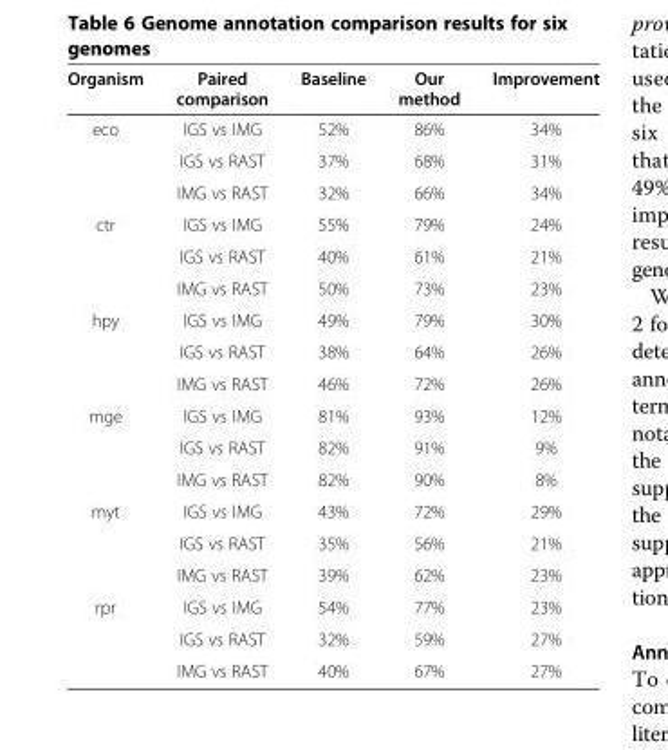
<table><thead><tr><td>Organism</td><td>Paired comparison</td><td>Baseline</td><td>Our method</td><td>Improvement</td></tr></thead><tbody><tr><td rowspan="3">eco</td><td>IGS vs IMG</td><td>52%</td><td>86%</td><td>34%</td></tr><tr><td>IGS vs RAST</td><td>37%</td><td>68%</td><td>31%</td></tr><tr><td>IMG vs RAST</td><td>32%</td><td>66%</td><td>34%</td></tr><tr><td rowspan="3">ctr</td><td>IGS vs IMG</td><td>55%</td><td>79%</td><td>24%</td></tr><tr><td>IGS vs RAST</td><td>40%</td><td>61%</td><td>21%</td></tr><tr><td>IMG vs RAST</td><td>50%</td><td>73%</td><td>23%</td></tr><tr><td rowspan="3">hpy</td><td>IGS vs IMG</td><td>49%</td><td>79%</td><td>30%</td></tr><tr><td>IGS vs RAST</td><td>38%</td><td>64%</td><td>26%</td></tr><tr><td>IMG vs RAST</td><td>46%</td><td>72%</td><td>26%</td></tr><tr><td rowspan="3">mge</td><td>IGS vs IMG</td><td>81%</td><td>93%</td><td>12%</td></tr><tr><td>IGS vs RAST</td><td>82%</td><td>91%</td><td>9%</td></tr><tr><td>IMG vs RAST</td><td>82%</td><td>90%</td><td>8%</td></tr><tr><td rowspan="3">myt</td><td>IGS vs IMG</td><td>43%</td><td>72%</td><td>29%</td></tr><tr><td>IGS vs RAST</td><td>35%</td><td>56%</td><td>21%</td></tr><tr><td>IMG vs RAST</td><td>39%</td><td>62%</td><td>23%</td></tr><tr><td rowspan="3">rpr</td><td>IGS vs IMG</td><td>54%</td><td>77%</td><td>23%</td></tr><tr><td>IGS vs RAST</td><td>32%</td><td>59%</td><td>27%</td></tr><tr><td>IMG vs RAST</td><td>40%</td><td>67%</td><td>27%</td></tr></tbody></table>